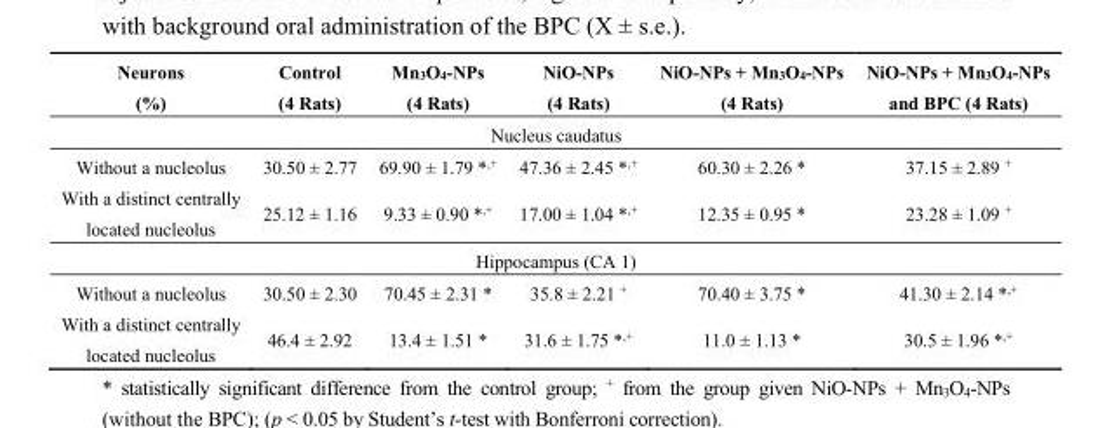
<table><thead><tr><td>Neurons (%)</td><td>Control (4 Rats)</td><td>Mn<sub>3</sub>O<sub>4</sub>-NPs (4 Rats)</td><td>NiO-NPs (4 Rats)</td><td>NiO-NPs + Mn<sub>3</sub>O<sub>4</sub>-NPs (4 Rats)</td><td>NiO-NPs + Mn<sub>3</sub>O<sub>4</sub>-NPs and BPC (4 Rats)</td></tr></thead><tbody><tr><td colspan="6">Nucleus caudatus</td></tr><tr><td>Without a nucleolus</td><td>30.50 ± 2.77</td><td>69.90 ± 1.79 *<sup>,+</sup></td><td>47.36 ± 2.45 *<sup>,+</sup></td><td>60.30 ± 2.26 *</td><td>37.15 ± 2.89 <sup>+</sup></td></tr><tr><td>With a distinct centrally located nucleolus</td><td>25.12 ± 1.16</td><td>9.33 ± 0.90 *<sup>,+</sup></td><td>17.00 ± 1.04 *<sup>,+</sup></td><td>12.35 ± 0.95 *</td><td>23.28 ± 1.09 <sup>+</sup></td></tr><tr><td colspan="6">Hippocampus (CA 1)</td></tr><tr><td>Without a nucleolus</td><td>30.50 ± 2.30</td><td>70.45 ± 2.31 *</td><td>35.8 ± 2.21 <sup>+</sup></td><td>70.40 ± 3.75 *</td><td>41.30 ± 2.14 *<sup>,+</sup></td></tr><tr><td>With a distinct centrally located nucleolus</td><td>46.4 ± 2.92</td><td>13.4 ± 1.51 *</td><td>31.6 ± 1.75 *<sup>,+</sup></td><td>11.0 ± 1.13 *</td><td>30.5 ± 1.96 *<sup>,+</sup></td></tr></tbody></table>